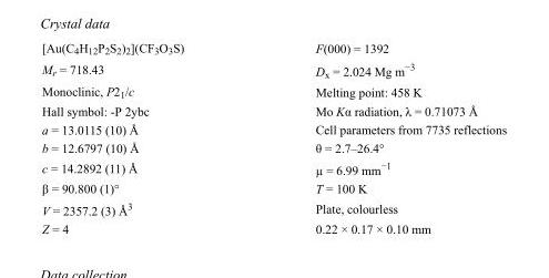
<table><tbody><tr><td>[Au(C<sub>4</sub>H<sub>12</sub>P<sub>2</sub>S<sub>2</sub>)<sub>2</sub>](CF<sub>3</sub>O<sub>3</sub>S)</td><td>F(000) = 1392</td></tr><tr><td>M<sub>r</sub> = 718.43</td><td>D<sub>x</sub> = 2.024 Mg m<sup>−3</sup></td></tr><tr><td>Monoclinic, P2<sub>1</sub>/c</td><td>Melting point: 458 K</td></tr><tr><td>Hall symbol: -P 2ybc</td><td>Mo Kα radiation, λ = 0.71073 Å</td></tr><tr><td>a = 13.0115 (10) Å</td><td>Cell parameters from 7735 reflections</td></tr><tr><td>b = 12.6797 (10) Å</td><td>θ = 2.7–26.4°</td></tr><tr><td>c = 14.2892 (11) Å</td><td>µ = 6.99 mm<sup>−1</sup></td></tr><tr><td>β = 90.800 (1)°</td><td>T = 100 K</td></tr><tr><td>V = 2357.2 (3) Å<sup>3</sup></td><td>Plate, colourless</td></tr><tr><td>Z = 4</td><td>0.22 × 0.17 × 0.10 mm</td></tr></tbody></table>